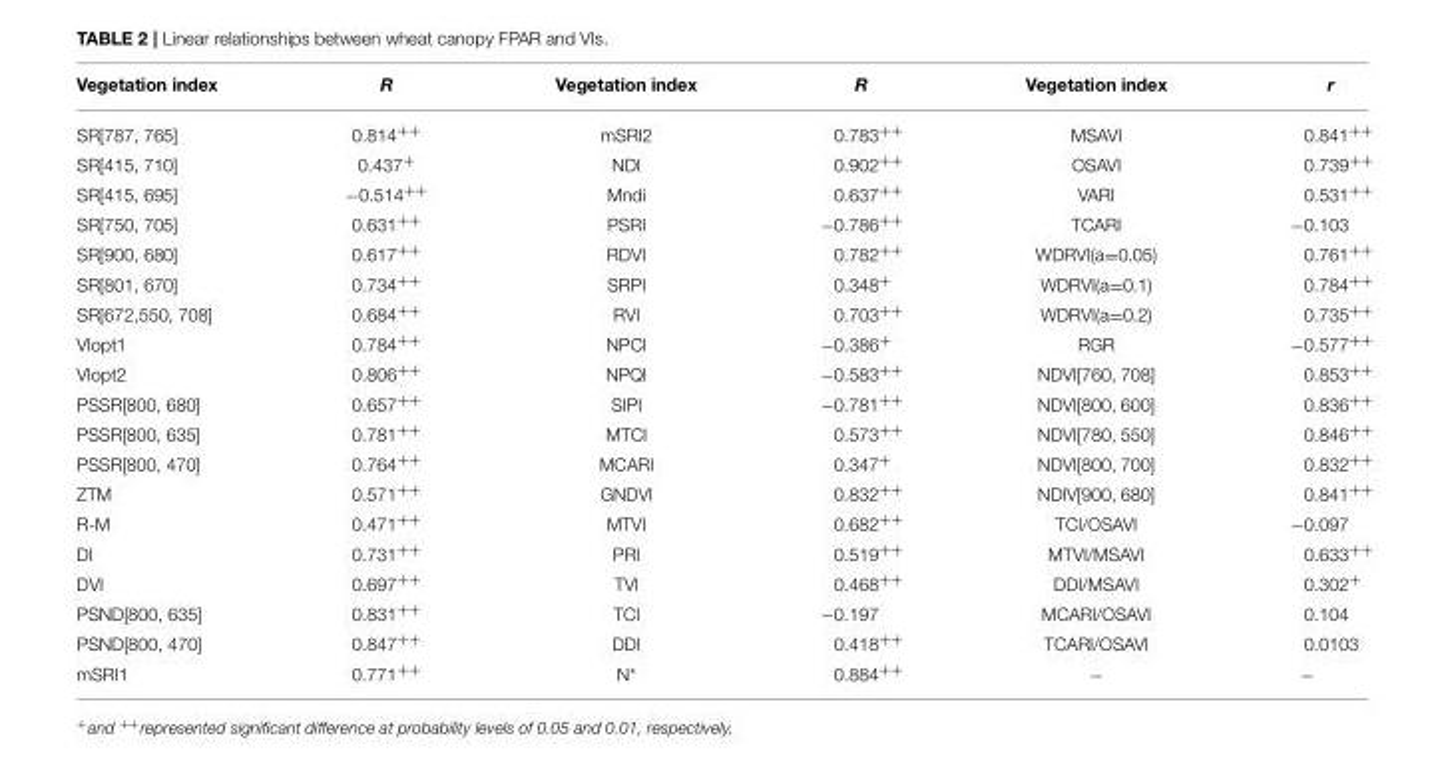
<table><thead><tr><td>Vegetation index</td><td>R</td><td>Vegetation index</td><td>R</td><td>Vegetation index</td><td>r</td></tr></thead><tbody><tr><td>SR[787, 765]</td><td>0.814<sup>++</sup></td><td>mSRI2</td><td>0.783<sup>++</sup></td><td>MSAVI</td><td>0.841<sup>++</sup></td></tr><tr><td>SR[415, 710]</td><td>0.437<sup>+</sup></td><td>NDI</td><td>0.902<sup>++</sup></td><td>OSAVI</td><td>0.739<sup>++</sup></td></tr><tr><td>SR[415, 695]</td><td>−0.514<sup>++</sup></td><td>Mndi</td><td>0.637<sup>++</sup></td><td>VARI</td><td>0.531<sup>++</sup></td></tr><tr><td>SR[750, 705]</td><td>0.631<sup>++</sup></td><td>PSRI</td><td>−0.786<sup>++</sup></td><td>TCARI</td><td>−0.103</td></tr><tr><td>SR[900, 680]</td><td>0.617<sup>++</sup></td><td>RDVI</td><td>0.782<sup>++</sup></td><td>WDRVI(a=0.05)</td><td>0.761<sup>++</sup></td></tr><tr><td>SR[801, 670]</td><td>0.734<sup>++</sup></td><td>SRPI</td><td>0.348<sup>+</sup></td><td>WDRVI(a=0.1)</td><td>0.784<sup>++</sup></td></tr><tr><td>SR[672,550, 708]</td><td>0.684<sup>++</sup></td><td>RVI</td><td>0.703<sup>++</sup></td><td>WDRVI(a=0.2)</td><td>0.735<sup>++</sup></td></tr><tr><td>VIopt1</td><td>0.784<sup>++</sup></td><td>NPCI</td><td>−0.386<sup>+</sup></td><td>RGR</td><td>−0.577<sup>++</sup></td></tr><tr><td>VIopt2</td><td>0.806<sup>++</sup></td><td>NPQI</td><td>−0.583<sup>++</sup></td><td>NDVI[760, 708]</td><td>0.853<sup>++</sup></td></tr><tr><td>PSSR[800, 680]</td><td>0.657<sup>++</sup></td><td>SIPI</td><td>−0.781<sup>++</sup></td><td>NDVI[800, 600]</td><td>0.836<sup>++</sup></td></tr><tr><td>PSSR[800, 635]</td><td>0.781<sup>++</sup></td><td>MTCI</td><td>0.573<sup>++</sup></td><td>NDVI[780, 550]</td><td>0.846<sup>++</sup></td></tr><tr><td>PSSR[800, 470]</td><td>0.764<sup>++</sup></td><td>MCARI</td><td>0.347<sup>+</sup></td><td>NDVI[800, 700]</td><td>0.832<sup>++</sup></td></tr><tr><td>ZTM</td><td>0.571<sup>++</sup></td><td>GNDVI</td><td>0.832<sup>++</sup></td><td>NDIV[900, 680]</td><td>0.841<sup>++</sup></td></tr><tr><td>R-M</td><td>0.471<sup>++</sup></td><td>MTVI</td><td>0.682<sup>++</sup></td><td>TCI/OSAVI</td><td>−0.097</td></tr><tr><td>DI</td><td>0.731<sup>++</sup></td><td>PRI</td><td>0.519<sup>++</sup></td><td>MTVI/MSAVI</td><td>0.633<sup>++</sup></td></tr><tr><td>DVI</td><td>0.697<sup>++</sup></td><td>TVI</td><td>0.468<sup>++</sup></td><td>DDI/MSAVI</td><td>0.302<sup>+</sup></td></tr><tr><td>PSND[800, 635]</td><td>0.831<sup>++</sup></td><td>TCI</td><td>−0.197</td><td>MCARI/OSAVI</td><td>0.104</td></tr><tr><td>PSND[800, 470]</td><td>0.847<sup>++</sup></td><td>DDI</td><td>0.418<sup>++</sup></td><td>TCARI/OSAVI</td><td>0.0103</td></tr><tr><td>mSRI1</td><td>0.771<sup>++</sup></td><td>N*</td><td>0.884<sup>++</sup></td><td>−</td><td>−</td></tr></tbody></table>